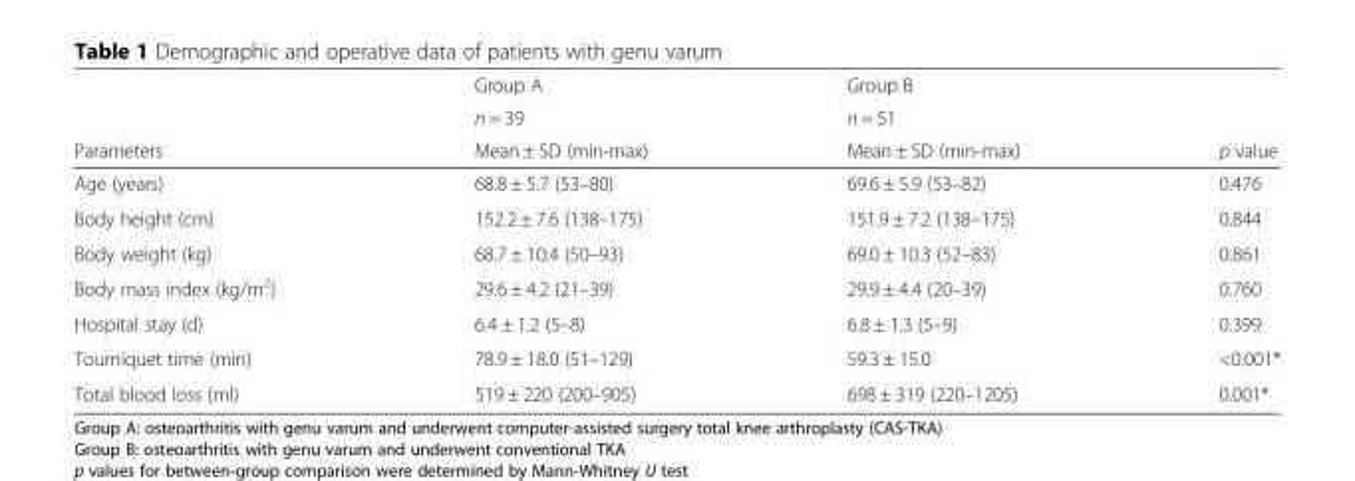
<table><thead><tr><td rowspan="3">Parameters</td><td rowspan="3">Group A n = 39 Mean ± SD (min-max)</td><td rowspan="3">Group B n = 51 Mean ± SD (min-max)</td><td rowspan="3">p value</td></tr><tr></tr><tr></tr></thead><tbody><tr><td>Age (years)</td><td>68.8 ± 5.7 (53–80)</td><td>69.6 ± 5.9 (53–82)</td><td>0.476</td></tr><tr><td>Body height (cm)</td><td>152.2 ± 7.6 (138–175)</td><td>151.9 ± 7.2 (138–175)</td><td>0.844</td></tr><tr><td>Body weight (kg)</td><td>68.7 ± 10.4 (50–93)</td><td>69.0 ± 10.3 (52–83)</td><td>0.861</td></tr><tr><td>Body mass index (kg/m<sup>2</sup>)</td><td>29.6 ± 4.2 (21–39)</td><td>29.9 ± 4.4 (20–39)</td><td>0.760</td></tr><tr><td>Hospital stay (d)</td><td>6.4 ± 1.2 (5–8)</td><td>6.8 ± 1.3 (5–9)</td><td>0.399</td></tr><tr><td>Tourniquet time (min)</td><td>78.9 ± 18.0 (51–129)</td><td>59.3 ± 15.0</td><td>&lt;0.001*</td></tr><tr><td>Total blood loss (ml)</td><td>519 ± 220 (200–905)</td><td>698 ± 319 (220–1205)</td><td>0.001*</td></tr></tbody></table>